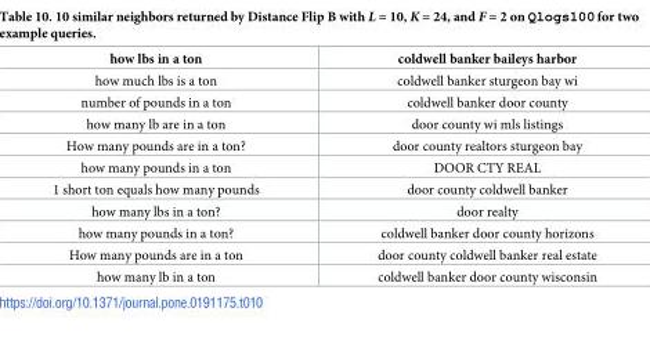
<table><thead><tr><td>how lbs in a ton</td><td>coldwell banker baileys harbor</td></tr></thead><tbody><tr><td>how much lbs is a ton</td><td>coldwell banker sturgeon bay wi</td></tr><tr><td>number of pounds in a ton</td><td>coldwell banker door county</td></tr><tr><td>how many lb are in a ton</td><td>door county wi mls listings</td></tr><tr><td>How many pounds are in a ton?</td><td>door county realtors sturgeon bay</td></tr><tr><td>how many pounds in a ton</td><td>DOOR CTY REAL</td></tr><tr><td>1 short ton equals how many pounds</td><td>door county coldwell banker</td></tr><tr><td>how many lbs in a ton?</td><td>door realty</td></tr><tr><td>how many pounds in a ton?</td><td>coldwell banker door county horizons</td></tr><tr><td>How many pounds are in a ton</td><td>door county coldwell banker real estate</td></tr><tr><td>how many lb in a ton</td><td>coldwell banker door county wisconsin</td></tr></tbody></table>